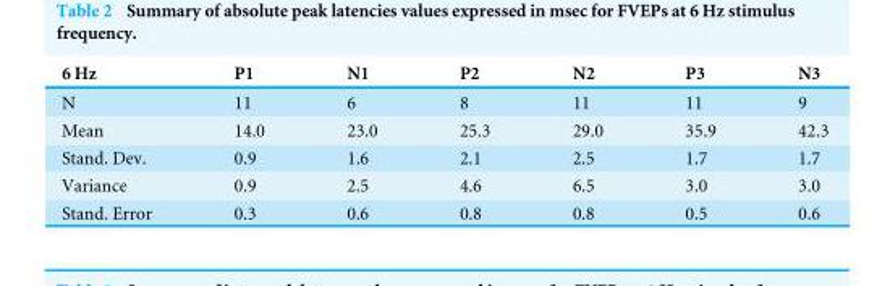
<table><thead><tr><td>6 Hz</td><td>P1</td><td>N1</td><td>P2</td><td>N2</td><td>P3</td><td>N3</td></tr></thead><tbody><tr><td>N</td><td>11</td><td>6</td><td>8</td><td>11</td><td>11</td><td>9</td></tr><tr><td>Mean</td><td>14.0</td><td>23.0</td><td>25.3</td><td>29.0</td><td>35.9</td><td>42.3</td></tr><tr><td>Stand. Dev.</td><td>0.9</td><td>1.6</td><td>2.1</td><td>2.5</td><td>1.7</td><td>1.7</td></tr><tr><td>Variance</td><td>0.9</td><td>2.5</td><td>4.6</td><td>6.5</td><td>3.0</td><td>3.0</td></tr><tr><td>Stand. Error</td><td>0.3</td><td>0.6</td><td>0.8</td><td>0.8</td><td>0.5</td><td>0.6</td></tr></tbody></table>